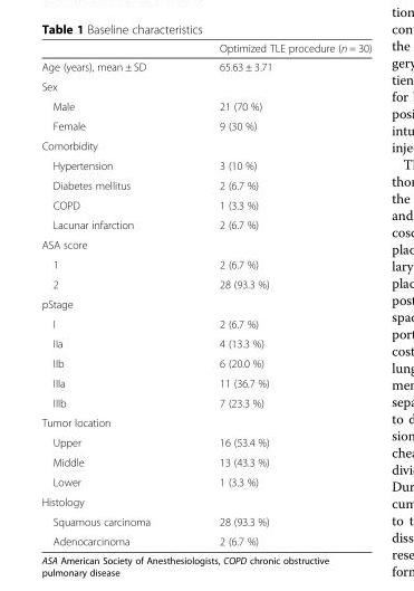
<table><thead><tr><td></td><td>Optimized TLE procedure (n = 30)</td></tr></thead><tbody><tr><td>Age (years), mean ± SD</td><td>65.63 ± 3.71</td></tr><tr><td colspan="2">Sex</td></tr><tr><td>Male</td><td>21 (70 %)</td></tr><tr><td>Female</td><td>9 (30 %)</td></tr><tr><td colspan="2">Comorbidity</td></tr><tr><td>Hypertension</td><td>3 (10 %)</td></tr><tr><td>Diabetes mellitus</td><td>2 (6.7 %)</td></tr><tr><td>COPD</td><td>1 (3.3 %)</td></tr><tr><td>Lacunar infarction</td><td>2 (6.7 %)</td></tr><tr><td colspan="2">ASA score</td></tr><tr><td>1</td><td>2 (6.7 %)</td></tr><tr><td>2</td><td>28 (93.3 %)</td></tr><tr><td colspan="2">pStage</td></tr><tr><td>I</td><td>2 (6.7 %)</td></tr><tr><td>IIa</td><td>4 (13.3 %)</td></tr><tr><td>IIb</td><td>6 (20.0 %)</td></tr><tr><td>IIIa</td><td>11 (36.7 %)</td></tr><tr><td>IIIb</td><td>7 (23.3 %)</td></tr><tr><td colspan="2">Tumor location</td></tr><tr><td>Upper</td><td>16 (53.4 %)</td></tr><tr><td>Middle</td><td>13 (43.3 %)</td></tr><tr><td>Lower</td><td>1 (3.3 %)</td></tr><tr><td colspan="2">Histology</td></tr><tr><td>Squamous carcinoma</td><td>28 (93.3 %)</td></tr><tr><td>Adenocarcinoma</td><td>2 (6.7 %)</td></tr></tbody></table>